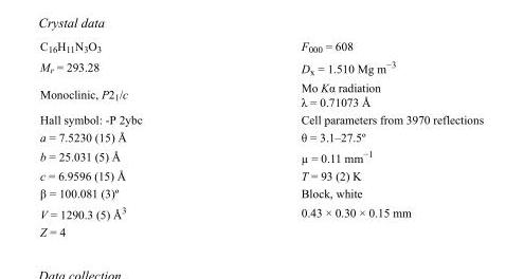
<table><tbody><tr><td>C<sub>16</sub>H<sub>11</sub>N<sub>3</sub>O<sub>3</sub></td><td>F<sub>000</sub> = 608</td></tr><tr><td>M<sub>r</sub> = 293.28</td><td>D<sub>x</sub> = 1.510 Mg m<sup>−3</sup></td></tr><tr><td>Monoclinic, P2<sub>1</sub>/c</td><td>Mo Kα radiation λ = 0.71073 Å</td></tr><tr><td>Hall symbol: -P 2ybc</td><td>Cell parameters from 3970 reflections</td></tr><tr><td>a = 7.5230 (15) Å</td><td>θ = 3.1–27.5º</td></tr><tr><td>b = 25.031 (5) Å</td><td>µ = 0.11 mm<sup>−1</sup></td></tr><tr><td>c = 6.9596 (15) Å</td><td>T = 93 (2) K</td></tr><tr><td>β = 100.081 (3)º</td><td>Block, white</td></tr><tr><td>V = 1290.3 (5) Å<sup>3</sup></td><td>0.43 × 0.30 × 0.15 mm</td></tr><tr><td>Z = 4</td><td></td></tr></tbody></table>